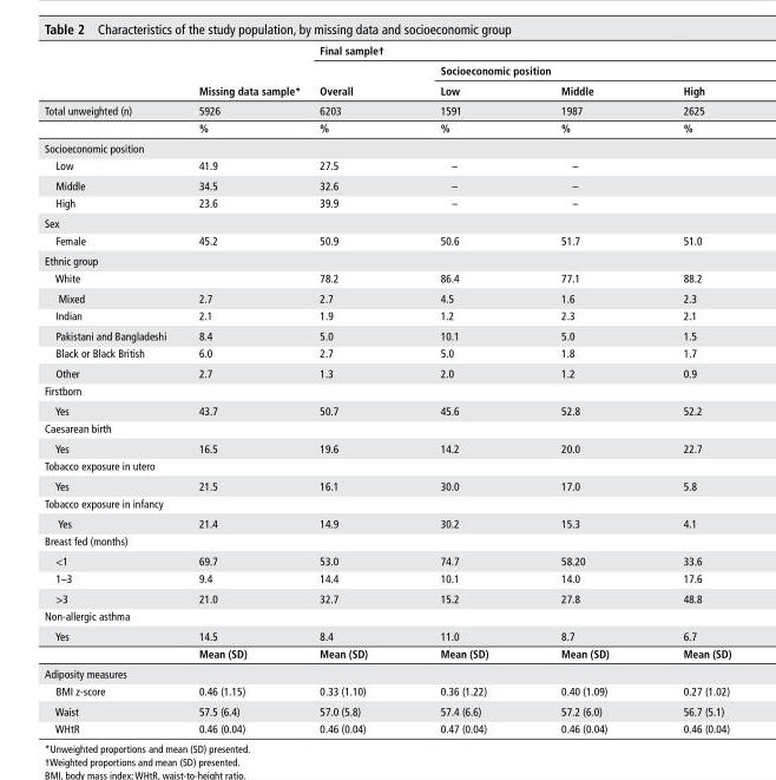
<table><thead><tr><td rowspan="3"></td><td rowspan="3">Missing data sample*</td><td colspan="4">Final sample†</td></tr><tr><td rowspan="2">overall</td><td colspan="3">socioeconomic position</td></tr><tr><td>low</td><td>Middle</td><td>high</td></tr></thead><tbody><tr><td rowspan="2">Total unweighted (n)</td><td>5926</td><td>6203</td><td>1591</td><td>1987</td><td>2625</td></tr><tr><td>%</td><td>%</td><td>%</td><td>%</td><td>%</td></tr><tr><td colspan="6">Socioeconomic position</td></tr><tr><td>Low</td><td>41.9</td><td>27.5</td><td>–</td><td>–</td><td></td></tr><tr><td>Middle</td><td>34.5</td><td>32.6</td><td>–</td><td>–</td><td></td></tr><tr><td>High</td><td>23.6</td><td>39.9</td><td>–</td><td>–</td><td></td></tr><tr><td colspan="6">Sex</td></tr><tr><td>Female</td><td>45.2</td><td>50.9</td><td>50.6</td><td>51.7</td><td>51.0</td></tr><tr><td colspan="6">Ethnic group</td></tr><tr><td>White</td><td></td><td>78.2</td><td>86.4</td><td>77.1</td><td>88.2</td></tr><tr><td>Mixed</td><td>2.7</td><td>2.7</td><td>4.5</td><td>1.6</td><td>2.3</td></tr><tr><td>Indian</td><td>2.1</td><td>1.9</td><td>1.2</td><td>2.3</td><td>2.1</td></tr><tr><td>Pakistani and Bangladeshi</td><td>8.4</td><td>5.0</td><td>10.1</td><td>5.0</td><td>1.5</td></tr><tr><td>Black or Black British</td><td>6.0</td><td>2.7</td><td>5.0</td><td>1.8</td><td>1.7</td></tr><tr><td>Other</td><td>2.7</td><td>1.3</td><td>2.0</td><td>1.2</td><td>0.9</td></tr><tr><td colspan="6">Firstborn</td></tr><tr><td>Yes</td><td>43.7</td><td>50.7</td><td>45.6</td><td>52.8</td><td>52.2</td></tr><tr><td colspan="6">Caesarean birth</td></tr><tr><td>Yes</td><td>16.5</td><td>19.6</td><td>14.2</td><td>20.0</td><td>22.7</td></tr><tr><td colspan="6">Tobacco exposure in utero</td></tr><tr><td>Yes</td><td>21.5</td><td>16.1</td><td>30.0</td><td>17.0</td><td>5.8</td></tr><tr><td colspan="6">Tobacco exposure in infancy</td></tr><tr><td>Yes</td><td>21.4</td><td>14.9</td><td>30.2</td><td>15.3</td><td>4.1</td></tr><tr><td colspan="6">Breast fed (months)</td></tr><tr><td>&lt;1</td><td>69.7</td><td>53.0</td><td>74.7</td><td>58.20</td><td>33.6</td></tr><tr><td>1–3</td><td>9.4</td><td>14.4</td><td>10.1</td><td>14.0</td><td>17.6</td></tr><tr><td>&gt;3</td><td>21.0</td><td>32.7</td><td>15.2</td><td>27.8</td><td>48.8</td></tr><tr><td colspan="6">Non-allergic asthma</td></tr><tr><td rowspan="2">Yes</td><td>14.5</td><td>8.4</td><td>11.0</td><td>8.7</td><td>6.7</td></tr><tr><td>Mean (sd)</td><td>Mean (sd)</td><td>Mean (sd)</td><td>Mean (sd)</td><td>Mean (sd)</td></tr><tr><td colspan="6">Adiposity measures</td></tr><tr><td>BMI z-score</td><td>0.46 (1.15)</td><td>0.33 (1.10)</td><td>0.36 (1.22)</td><td>0.40 (1.09)</td><td>0.27 (1.02)</td></tr><tr><td>Waist</td><td>57.5 (6.4)</td><td>57.0 (5.8)</td><td>57.4 (6.6)</td><td>57.2 (6.0)</td><td>56.7 (5.1)</td></tr><tr><td>WHtR</td><td>0.46 (0.04)</td><td>0.46 (0.04)</td><td>0.47 (0.04)</td><td>0.46 (0.04)</td><td>0.46 (0.04)</td></tr></tbody></table>